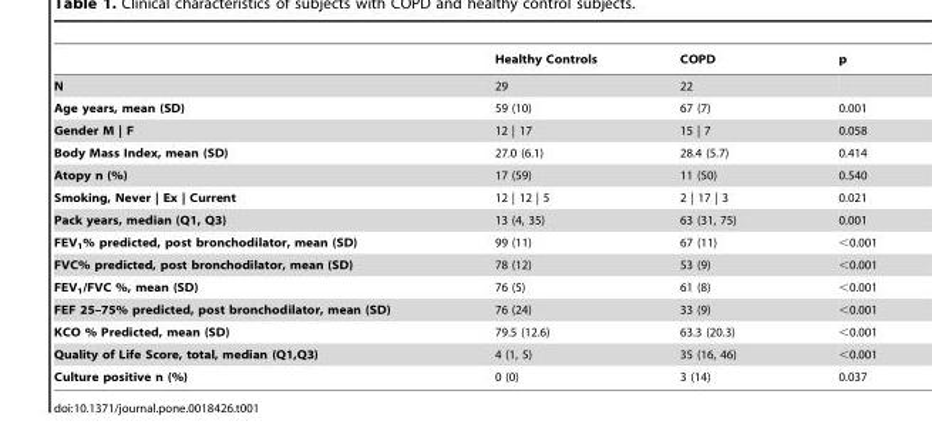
<table><thead><tr><td></td><td>Healthy Controls</td><td>COPD</td><td>p</td></tr></thead><tbody><tr><td>N</td><td>29</td><td>22</td><td></td></tr><tr><td>Age years, mean (SD)</td><td>59 (10)</td><td>67 (7)</td><td>0.001</td></tr><tr><td>Gender M | F</td><td>12 | 17</td><td>15 | 7</td><td>0.058</td></tr><tr><td>Body Mass Index, mean (SD)</td><td>27.0 (6.1)</td><td>28.4 (5.7)</td><td>0.414</td></tr><tr><td>Atopy n (%)</td><td>17 (59)</td><td>11 (50)</td><td>0.540</td></tr><tr><td>Smoking, Never | Ex | Current</td><td>12 | 12 | 5</td><td>2 | 17 | 3</td><td>0.021</td></tr><tr><td>Pack years, median (Q1, Q3)</td><td>13 (4, 35)</td><td>63 (31, 75)</td><td>0.001</td></tr><tr><td>FEV<sub>1</sub>% predicted, post bronchodilator, mean (SD)</td><td>99 (11)</td><td>67 (11)</td><td>&lt;0.001</td></tr><tr><td>FVC% predicted, post bronchodilator, mean (SD)</td><td>78 (12)</td><td>53 (9)</td><td>&lt;0.001</td></tr><tr><td>FEV<sub>1</sub>/FVC %, mean (SD)</td><td>76 (5)</td><td>61 (8)</td><td>&lt;0.001</td></tr><tr><td>FEF 25–75% predicted, post bronchodilator, mean (SD)</td><td>76 (24)</td><td>33 (9)</td><td>&lt;0.001</td></tr><tr><td>KCO % Predicted, mean (SD)</td><td>79.5 (12.6)</td><td>63.3 (20.3)</td><td>&lt;0.001</td></tr><tr><td>Quality of Life Score, total, median (Q1,Q3)</td><td>4 (1, 5)</td><td>35 (16, 46)</td><td>&lt;0.001</td></tr><tr><td>Culture positive n (%)</td><td>0 (0)</td><td>3 (14)</td><td>0.037</td></tr></tbody></table>